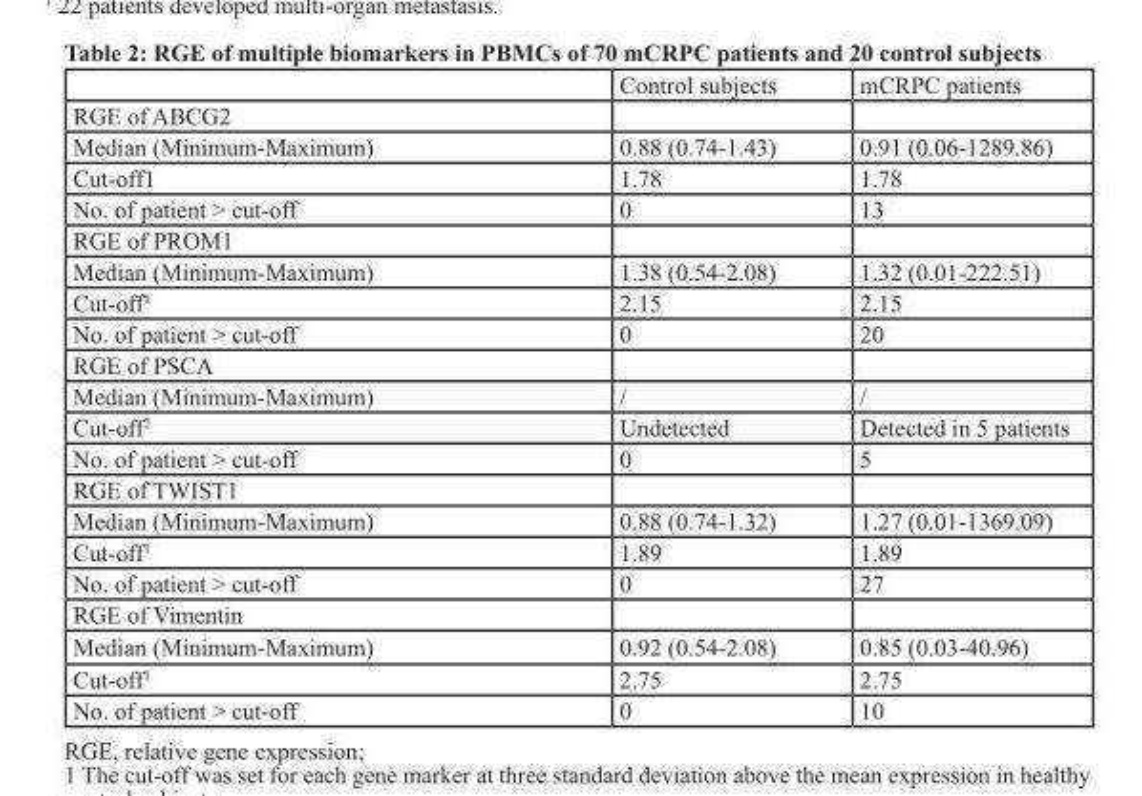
<table><thead><tr><td></td><td>Control subjects</td><td>mCRPC patients</td></tr></thead><tbody><tr><td colspan="3">RGE of ABCG2</td></tr><tr><td>Median (Minimum-Maximum)</td><td>0.88 (0.74-1.43)</td><td>0.91 (0.06-1289.86)</td></tr><tr><td>Cut-off<sup>1</sup></td><td>1.78</td><td>1.78</td></tr><tr><td>No. of patient &gt; cut-off</td><td>0</td><td>13</td></tr><tr><td colspan="3">RGE of PROM1</td></tr><tr><td>Median (Minimum-Maximum)</td><td>1.38 (0.54-2.08)</td><td>1.32 (0.01-222.51)</td></tr><tr><td>Cut-off<sup>1</sup></td><td>2.15</td><td>2.15</td></tr><tr><td>No. of patient &gt; cut-off</td><td>0</td><td>20</td></tr><tr><td colspan="3">RGE of PSCA</td></tr><tr><td>Median (Minimum-Maximum)</td><td>/</td><td>/</td></tr><tr><td>Cut-off<sup>2</sup></td><td>Undetected</td><td>Detected in 5 patients</td></tr><tr><td>No. of patient &gt; cut-off</td><td>0</td><td>5</td></tr><tr><td colspan="3">RGE of TWIST1</td></tr><tr><td>Median (Minimum-Maximum)</td><td>0.88 (0.74-1.32)</td><td>1.27 (0.01-1369.09)</td></tr><tr><td>Cut-off<sup>1</sup></td><td>1.89</td><td>1.89</td></tr><tr><td>No. of patient &gt; cut-off</td><td>0</td><td>27</td></tr><tr><td colspan="3">RGE of Vimentin</td></tr><tr><td>Median (Minimum-Maximum)</td><td>0.92 (0.54-2.08)</td><td>0.85 (0.03-40.96)</td></tr><tr><td>Cut-off<sup>1</sup></td><td>2.75</td><td>2.75</td></tr><tr><td>No. of patient &gt; cut-off</td><td>0</td><td>10</td></tr></tbody></table>